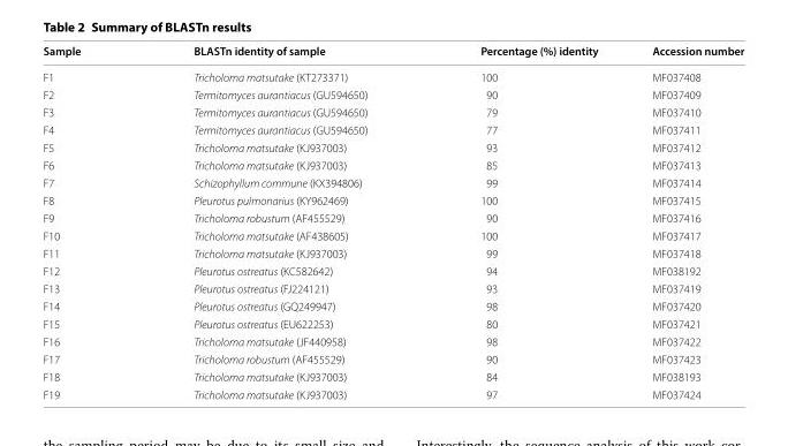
<table><thead><tr><td>Sample</td><td>BLASTn identity of sample</td><td>Percentage (%) identity</td><td>Accession number</td></tr></thead><tbody><tr><td>F1</td><td>Tricholoma matsutake (KT273371)</td><td>100</td><td>MF037408</td></tr><tr><td>F2</td><td>Termitomyces aurantiacus (GU594650)</td><td>90</td><td>MF037409</td></tr><tr><td>F3</td><td>Termitomyces aurantiacus (GU594650)</td><td>79</td><td>MF037410</td></tr><tr><td>F4</td><td>Termitomyces aurantiacus (GU594650)</td><td>77</td><td>MF037411</td></tr><tr><td>F5</td><td>Tricholoma matsutake (KJ937003)</td><td>93</td><td>MF037412</td></tr><tr><td>F6</td><td>Tricholoma matsutake (KJ937003)</td><td>85</td><td>MF037413</td></tr><tr><td>F7</td><td>Schizophyllum commune (KX394806)</td><td>99</td><td>MF037414</td></tr><tr><td>F8</td><td>Pleurotus pulmonarius (KY962469)</td><td>100</td><td>MF037415</td></tr><tr><td>F9</td><td>Tricholoma robustum (AF455529)</td><td>90</td><td>MF037416</td></tr><tr><td>F10</td><td>Tricholoma matsutake (AF438605)</td><td>100</td><td>MF037417</td></tr><tr><td>F11</td><td>Tricholoma matsutake (KJ937003)</td><td>99</td><td>MF037418</td></tr><tr><td>F12</td><td>Pleurotus ostreatus (KC582642)</td><td>94</td><td>MF038192</td></tr><tr><td>F13</td><td>Pleurotus ostreatus (FJ224121)</td><td>93</td><td>MF037419</td></tr><tr><td>F14</td><td>Pleurotus ostreatus (GQ249947)</td><td>98</td><td>MF037420</td></tr><tr><td>F15</td><td>Pleurotus ostreatus (EU622253)</td><td>80</td><td>MF037421</td></tr><tr><td>F16</td><td>Tricholoma matsutake (JF440958)</td><td>98</td><td>MF037422</td></tr><tr><td>F17</td><td>Tricholoma robustum (AF455529)</td><td>90</td><td>MF037423</td></tr><tr><td>F18</td><td>Tricholoma matsutake (KJ937003)</td><td>84</td><td>MF038193</td></tr><tr><td>F19</td><td>Tricholoma matsutake (KJ937003)</td><td>97</td><td>MF037424</td></tr></tbody></table>